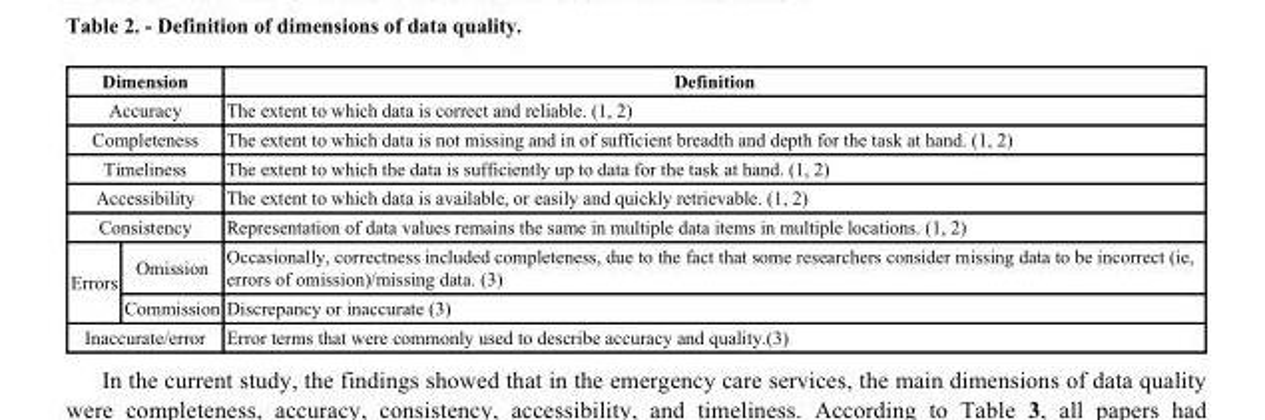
<table><thead><tr><td colspan="2">Dimension</td><td>Definition</td></tr></thead><tbody><tr><td colspan="2">Accuracy</td><td>The extent to which data is correct and reliable. (1, 2)</td></tr><tr><td colspan="2">Completeness</td><td>The extent to which data is not missing and in of sufficient breadth and depth for the task at hand. (1, 2)</td></tr><tr><td colspan="2">Timeliness</td><td>The extent to which the data is sufficiently up to data for the task at hand. (1, 2)</td></tr><tr><td colspan="2">Accessibility</td><td>The extent to which data is available, or easily and quickly retrievable. (1, 2)</td></tr><tr><td colspan="2">Consistency</td><td>Representation of data values remains the same in multiple data items in multiple locations. (1, 2)</td></tr><tr><td rowspan="2">Errors</td><td>Omission</td><td>Occasionally, correctness included completeness, due to the fact that some researchers consider missing data to be incorrect (ie, errors of omission)/missing data. (3)</td></tr><tr><td>Commission</td><td>Discrepancy or inaccurate (3)</td></tr><tr><td colspan="2">Inaccurate/error</td><td>Error terms that were commonly used to describe accuracy and quality.(3)</td></tr></tbody></table>